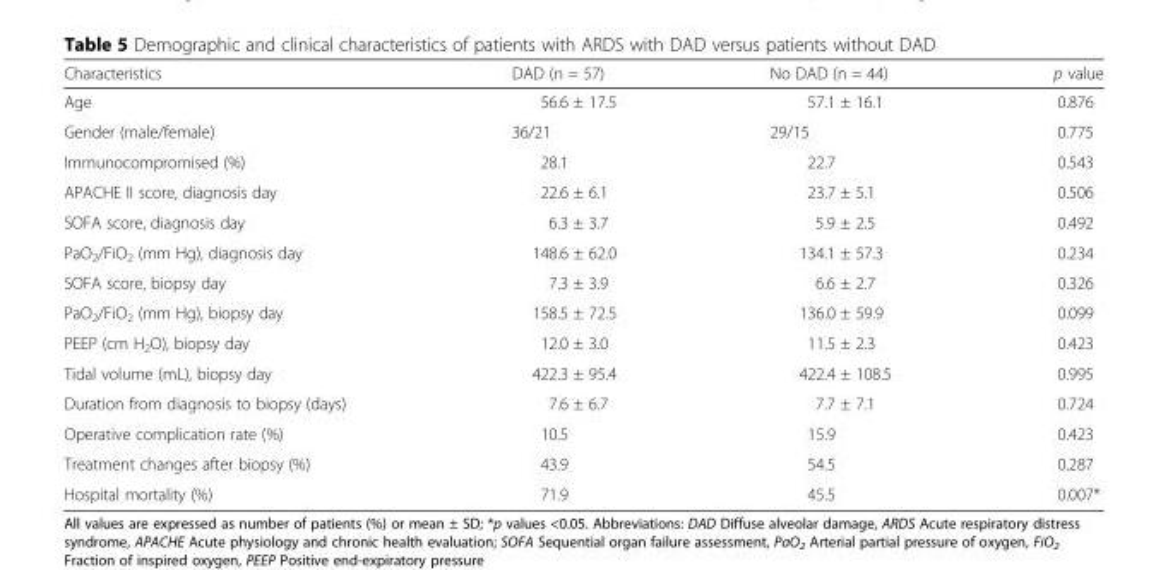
<table><thead><tr><td>Characteristics</td><td>DAD (n = 57)</td><td>No DAD (n = 44)</td><td>p value</td></tr></thead><tbody><tr><td>Age</td><td>56.6 ± 17.5</td><td>57.1 ± 16.1</td><td>0.876</td></tr><tr><td>Gender (male/female)</td><td>36/21</td><td>29/15</td><td>0.775</td></tr><tr><td>Immunocompromised (%)</td><td>28.1</td><td>22.7</td><td>0.543</td></tr><tr><td>APACHE II score, diagnosis day</td><td>22.6 ± 6.1</td><td>23.7 ± 5.1</td><td>0.506</td></tr><tr><td>SOFA score, diagnosis day</td><td>6.3 ± 3.7</td><td>5.9 ± 2.5</td><td>0.492</td></tr><tr><td>PaO<sub>2</sub>/FiO<sub>2</sub> (mm Hg), diagnosis day</td><td>148.6 ± 62.0</td><td>134.1 ± 57.3</td><td>0.234</td></tr><tr><td>SOFA score, biopsy day</td><td>7.3 ± 3.9</td><td>6.6 ± 2.7</td><td>0.326</td></tr><tr><td>PaO<sub>2</sub>/FiO<sub>2</sub> (mm Hg), biopsy day</td><td>158.5 ± 72.5</td><td>136.0 ± 59.9</td><td>0.099</td></tr><tr><td>PEEP (cm H<sub>2</sub>O), biopsy day</td><td>12.0 ± 3.0</td><td>11.5 ± 2.3</td><td>0.423</td></tr><tr><td>Tidal volume (mL), biopsy day</td><td>422.3 ± 95.4</td><td>422.4 ± 108.5</td><td>0.995</td></tr><tr><td>Duration from diagnosis to biopsy (days)</td><td>7.6 ± 6.7</td><td>7.7 ± 7.1</td><td>0.724</td></tr><tr><td>Operative complication rate (%)</td><td>10.5</td><td>15.9</td><td>0.423</td></tr><tr><td>Treatment changes after biopsy (%)</td><td>43.9</td><td>54.5</td><td>0.287</td></tr><tr><td>Hospital mortality (%)</td><td>71.9</td><td>45.5</td><td>0.007*</td></tr></tbody></table>